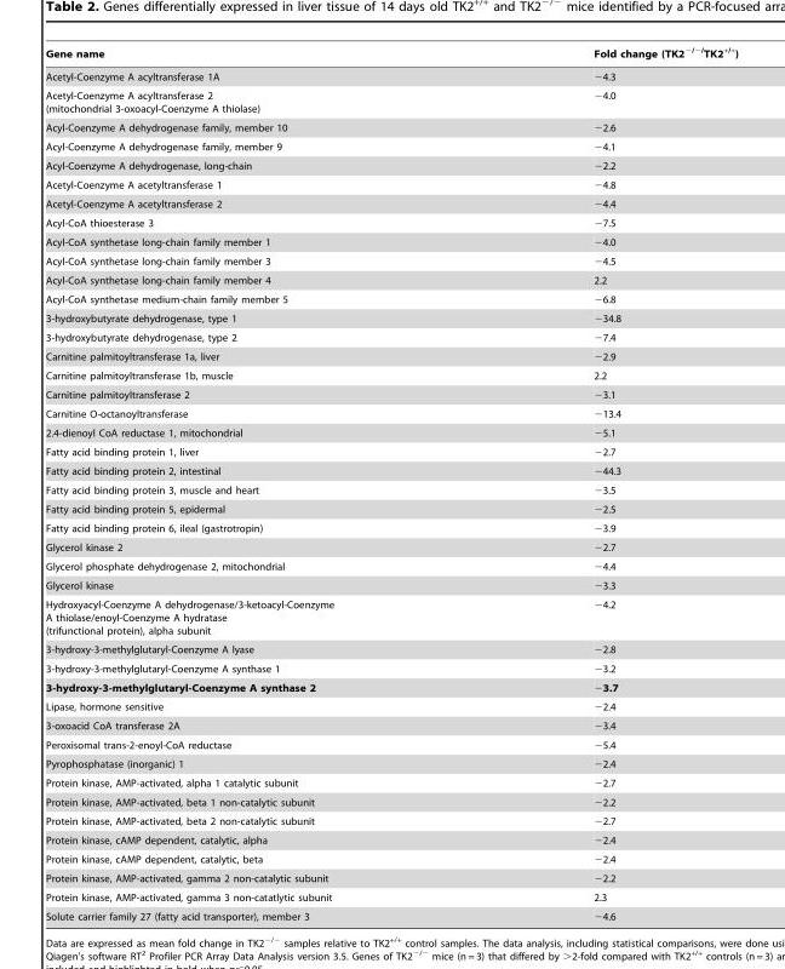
<table><thead><tr><td>Gene name</td><td>Fold change (TK2<sup>−/−/</sup>TK2<sup>+/+</sup>)</td></tr></thead><tbody><tr><td>Acetyl-Coenzyme A acyltransferase 1A</td><td>−4.3</td></tr><tr><td>Acetyl-Coenzyme A acyltransferase 2 (mitochondrial 3-oxoacyl-Coenzyme A thiolase)</td><td>−4.0</td></tr><tr><td>Acyl-Coenzyme A dehydrogenase family, member 10</td><td>−2.6</td></tr><tr><td>Acyl-Coenzyme A dehydrogenase family, member 9</td><td>−4.1</td></tr><tr><td>Acyl-Coenzyme A dehydrogenase, long-chain</td><td>−2.2</td></tr><tr><td>Acetyl-Coenzyme A acetyltransferase 1</td><td>−4.8</td></tr><tr><td>Acetyl-Coenzyme A acetyltransferase 2</td><td>−4.4</td></tr><tr><td>Acyl-CoA thioesterase 3</td><td>−7.5</td></tr><tr><td>Acyl-CoA synthetase long-chain family member 1</td><td>−4.0</td></tr><tr><td>Acyl-CoA synthetase long-chain family member 3</td><td>−4.5</td></tr><tr><td>Acyl-CoA synthetase long-chain family member 4</td><td>2.2</td></tr><tr><td>Acyl-CoA synthetase medium-chain family member 5</td><td>−6.8</td></tr><tr><td>3-hydroxybutyrate dehydrogenase, type 1</td><td>−34.8</td></tr><tr><td>3-hydroxybutyrate dehydrogenase, type 2</td><td>−7.4</td></tr><tr><td>Carnitine palmitoyltransferase 1a, liver</td><td>−2.9</td></tr><tr><td>Carnitine palmitoyltransferase 1b, muscle</td><td>2.2</td></tr><tr><td>Carnitine palmitoyltransferase 2</td><td>−3.1</td></tr><tr><td>Carnitine O-octanoyltransferase</td><td>−13.4</td></tr><tr><td>2.4-dienoyl CoA reductase 1, mitochondrial</td><td>−5.1</td></tr><tr><td>Fatty acid binding protein 1, liver</td><td>−2.7</td></tr><tr><td>Fatty acid binding protein 2, intestinal</td><td>−44.3</td></tr><tr><td>Fatty acid binding protein 3, muscle and heart</td><td>−3.5</td></tr><tr><td>Fatty acid binding protein 5, epidermal</td><td>−2.5</td></tr><tr><td>Fatty acid binding protein 6, ileal (gastrotropin)</td><td>−3.9</td></tr><tr><td>Glycerol kinase 2</td><td>−2.7</td></tr><tr><td>Glycerol phosphate dehydrogenase 2, mitochondrial</td><td>−4.4</td></tr><tr><td>Glycerol kinase</td><td>−3.3</td></tr><tr><td>Hydroxyacyl-Coenzyme A dehydrogenase/3-ketoacyl-Coenzyme A thiolase/enoyl-Coenzyme A hydratase (trifunctional protein), alpha subunit</td><td>−4.2</td></tr><tr><td>3-hydroxy-3-methylglutaryl-Coenzyme A lyase</td><td>−2.8</td></tr><tr><td>3-hydroxy-3-methylglutaryl-Coenzyme A synthase 1</td><td>−3.2</td></tr><tr><td>3-hydroxy-3-methylglutaryl-Coenzyme A synthase 2</td><td>−3.7</td></tr><tr><td>Lipase, hormone sensitive</td><td>−2.4</td></tr><tr><td>3-oxoacid CoA transferase 2A</td><td>−3.4</td></tr><tr><td>Peroxisomal trans-2-enoyl-CoA reductase</td><td>−5.4</td></tr><tr><td>Pyrophosphatase (inorganic) 1</td><td>−2.4</td></tr><tr><td>Protein kinase, AMP-activated, alpha 1 catalytic subunit</td><td>−2.7</td></tr><tr><td>Protein kinase, AMP-activated, beta 1 non-catalytic subunit</td><td>−2.2</td></tr><tr><td>Protein kinase, AMP-activated, beta 2 non-catalytic subunit</td><td>−2.7</td></tr><tr><td>Protein kinase, cAMP dependent, catalytic, alpha</td><td>−2.4</td></tr><tr><td>Protein kinase, cAMP dependent, catalytic, beta</td><td>−2.4</td></tr><tr><td>Protein kinase, AMP-activated, gamma 2 non-catalytic subunit</td><td>−2.2</td></tr><tr><td>Protein kinase, AMP-activated, gamma 3 non-catatlytic subunit</td><td>2.3</td></tr><tr><td>Solute carrier family 27 (fatty acid transporter), member 3</td><td>−4.6</td></tr></tbody></table>